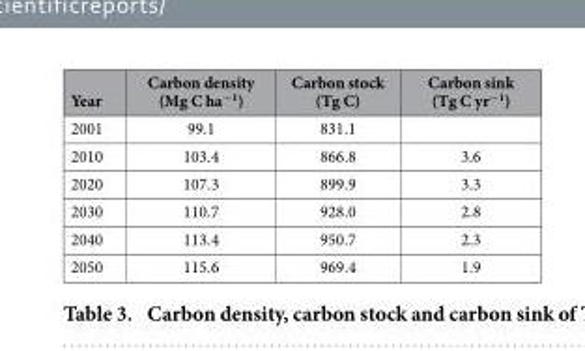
<table><thead><tr><td>Year</td><td>Carbon density (Mg C ha<sup>−1</sup>)</td><td>Carbon stock (Tg C)</td><td>Carbon sink (Tg C yr<sup>−1</sup>)</td></tr></thead><tbody><tr><td>2001</td><td>99.1</td><td>831.1</td><td></td></tr><tr><td>2010</td><td>103.4</td><td>866.8</td><td>3.6</td></tr><tr><td>2020</td><td>107.3</td><td>899.9</td><td>3.3</td></tr><tr><td>2030</td><td>110.7</td><td>928.0</td><td>2.8</td></tr><tr><td>2040</td><td>113.4</td><td>950.7</td><td>2.3</td></tr><tr><td>2050</td><td>115.6</td><td>969.4</td><td>1.9</td></tr></tbody></table>